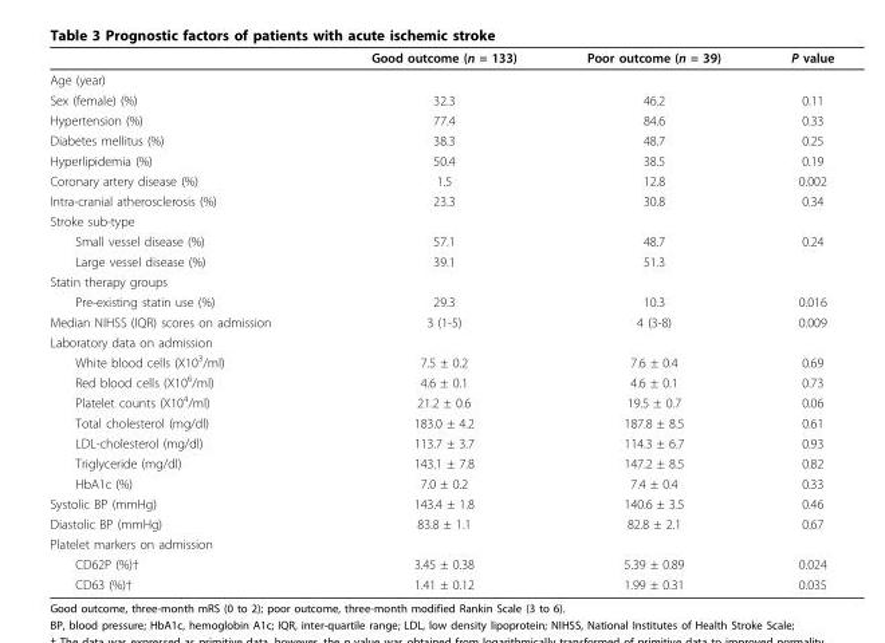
<table><thead><tr><td></td><td>Good outcome (n = 133)</td><td>Poor outcome (n = 39)</td><td>P value</td></tr></thead><tbody><tr><td colspan="4">Age (year)</td></tr><tr><td>Sex (female) (%)</td><td>32.3</td><td>46.2</td><td>0.11</td></tr><tr><td>Hypertension (%)</td><td>77.4</td><td>84.6</td><td>0.33</td></tr><tr><td>Diabetes mellitus (%)</td><td>38.3</td><td>48.7</td><td>0.25</td></tr><tr><td>Hyperlipidemia (%)</td><td>50.4</td><td>38.5</td><td>0.19</td></tr><tr><td>Coronary artery disease (%)</td><td>1.5</td><td>12.8</td><td>0.002</td></tr><tr><td>Intra-cranial atherosclerosis (%)</td><td>23.3</td><td>30.8</td><td>0.34</td></tr><tr><td colspan="4">Stroke sub-type</td></tr><tr><td>Small vessel disease (%)</td><td>57.1</td><td>48.7</td><td>0.24</td></tr><tr><td>Large vessel disease (%)</td><td>39.1</td><td>51.3</td><td></td></tr><tr><td colspan="4">Statin therapy groups</td></tr><tr><td>Pre-existing statin use (%)</td><td>29.3</td><td>10.3</td><td>0.016</td></tr><tr><td>Median NIHSS (IQR) scores on admission</td><td>3 (1-5)</td><td>4 (3-8)</td><td>0.009</td></tr><tr><td colspan="4">Laboratory data on admission</td></tr><tr><td>White blood cells (X10<sup>3</sup>/ml)</td><td>7.5 ± 0.2</td><td>7.6 ± 0.4</td><td>0.69</td></tr><tr><td>Red blood cells (X10<sup>6</sup>/ml)</td><td>4.6 ± 0.1</td><td>4.6 ± 0.1</td><td>0.73</td></tr><tr><td>Platelet counts (X10<sup>4</sup>/ml)</td><td>21.2 ± 0.6</td><td>19.5 ± 0.7</td><td>0.06</td></tr><tr><td>Total cholesterol (mg/dl)</td><td>183.0 ± 4.2</td><td>187.8 ± 8.5</td><td>0.61</td></tr><tr><td>LDL-cholesterol (mg/dl)</td><td>113.7 ± 3.7</td><td>114.3 ± 6.7</td><td>0.93</td></tr><tr><td>Triglyceride (mg/dl)</td><td>143.1 ± 7.8</td><td>147.2 ± 8.5</td><td>0.82</td></tr><tr><td>HbA1c (%)</td><td>7.0 ± 0.2</td><td>7.4 ± 0.4</td><td>0.33</td></tr><tr><td>Systolic BP (mmHg)</td><td>143.4 ± 1.8</td><td>140.6 ± 3.5</td><td>0.46</td></tr><tr><td>Diastolic BP (mmHg)</td><td>83.8 ± 1.1</td><td>82.8 ± 2.1</td><td>0.67</td></tr><tr><td colspan="4">Platelet markers on admission</td></tr><tr><td>CD62P (%)†</td><td>3.45 ± 0.38</td><td>5.39 ± 0.89</td><td>0.024</td></tr><tr><td>CD63 (%)†</td><td>1.41 ± 0.12</td><td>1.99 ± 0.31</td><td>0.035</td></tr></tbody></table>